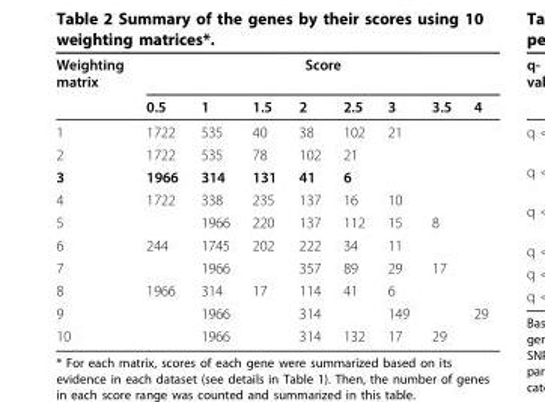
<table><thead><tr><td rowspan="2">Weighting matrix</td><td colspan="8">Score</td></tr><tr><td>0.5</td><td>1</td><td>1.5</td><td>2</td><td>2.5</td><td>3</td><td>3.5</td><td>4</td></tr></thead><tbody><tr><td>1</td><td>1722</td><td>535</td><td>40</td><td>38</td><td>102</td><td>21</td><td></td><td></td></tr><tr><td>2</td><td>1722</td><td>535</td><td>78</td><td>102</td><td>21</td><td></td><td></td><td></td></tr><tr><td>3</td><td>1966</td><td>314</td><td>131</td><td>41</td><td>6</td><td></td><td></td><td></td></tr><tr><td>4</td><td>1722</td><td>338</td><td>235</td><td>137</td><td>16</td><td>10</td><td></td><td></td></tr><tr><td>5</td><td></td><td>1966</td><td>220</td><td>137</td><td>112</td><td>15</td><td>8</td><td></td></tr><tr><td>6</td><td>244</td><td>1745</td><td>202</td><td>222</td><td>34</td><td>11</td><td></td><td></td></tr><tr><td>7</td><td></td><td>1966</td><td></td><td>357</td><td>89</td><td>29</td><td>17</td><td></td></tr><tr><td>8</td><td>1966</td><td>314</td><td>17</td><td>114</td><td>41</td><td>6</td><td></td><td></td></tr><tr><td>9</td><td></td><td>1966</td><td></td><td>314</td><td></td><td>149</td><td></td><td>29</td></tr><tr><td>10</td><td></td><td>1966</td><td></td><td>314</td><td>132</td><td>17</td><td>29</td><td></td></tr></tbody></table>